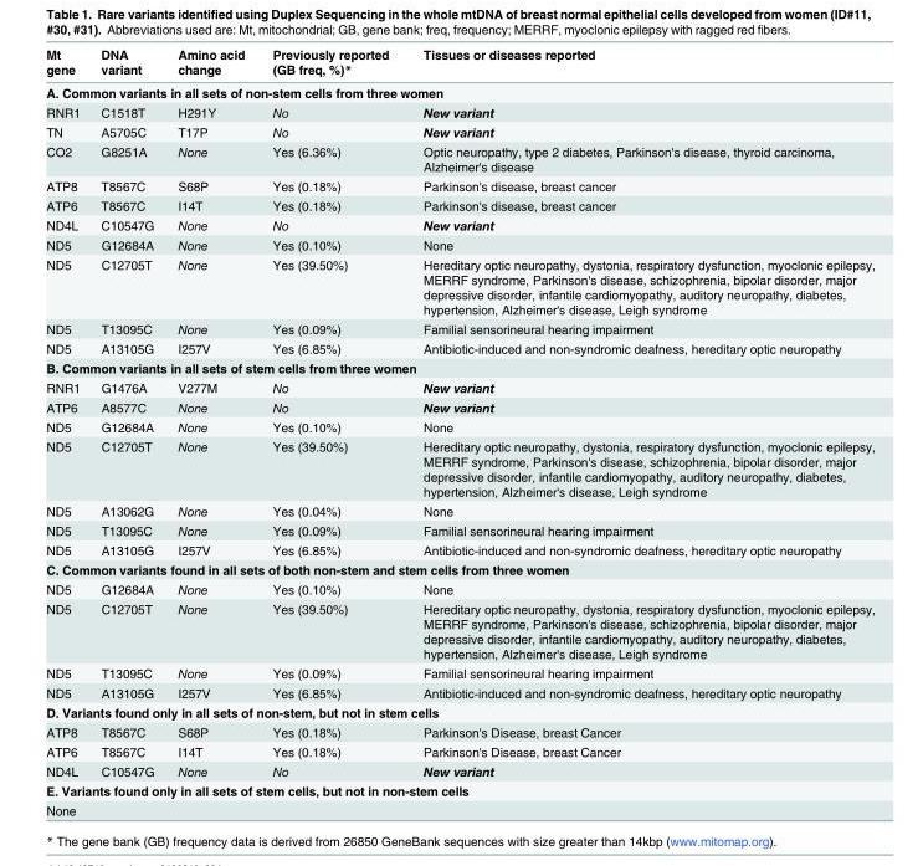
<table><thead><tr><td>Mt gene</td><td>DNA variant</td><td>Amino acid change</td><td>Previously reported (GB freq, %)*</td><td>Tissues or diseases reported</td></tr></thead><tbody><tr><td colspan="5">A. Common variants in all sets of non-stem cells from three women</td></tr><tr><td>RNR1</td><td>C1518T</td><td>H291Y</td><td>No</td><td>New variant</td></tr><tr><td>TN</td><td>A5705C</td><td>T17P</td><td>No</td><td>New variant</td></tr><tr><td>CO2</td><td>G8251A</td><td>None</td><td>Yes (6.36%)</td><td>Optic neuropathy, type 2 diabetes, Parkinson&#x27;s disease, thyroid carcinoma, Alzheimer&#x27;s disease</td></tr><tr><td>ATP8</td><td>T8567C</td><td>S68P</td><td>Yes (0.18%)</td><td>Parkinson&#x27;s disease, breast cancer</td></tr><tr><td>ATP6</td><td>T8567C</td><td>I14T</td><td>Yes (0.18%)</td><td>Parkinson&#x27;s disease, breast cancer</td></tr><tr><td>ND4L</td><td>C10547G</td><td>None</td><td>No</td><td>New variant</td></tr><tr><td>ND5</td><td>G12684A</td><td>None</td><td>Yes (0.10%)</td><td>None</td></tr><tr><td>ND5</td><td>C12705T</td><td>None</td><td>Yes (39.50%)</td><td>Hereditary optic neuropathy, dystonia, respiratory dysfunction, myoclonic epilepsy, MERRF syndrome, Parkinson&#x27;s disease, schizophrenia, bipolar disorder, major depressive disorder, infantile cardiomyopathy, auditory neuropathy, diabetes, hypertension, Alzheimer&#x27;s disease, Leigh syndrome</td></tr><tr><td>ND5</td><td>T13095C</td><td>None</td><td>Yes (0.09%)</td><td>Familial sensorineural hearing impairment</td></tr><tr><td>ND5</td><td>A13105G</td><td>I257V</td><td>Yes (6.85%)</td><td>Antibiotic-induced and non-syndromic deafness, hereditary optic neuropathy</td></tr><tr><td colspan="5">B. Common variants in all sets of stem cells from three women</td></tr><tr><td>RNR1</td><td>G1476A</td><td>V277M</td><td>No</td><td>New variant</td></tr><tr><td>ATP6</td><td>A8577C</td><td>None</td><td>No</td><td>New variant</td></tr><tr><td>ND5</td><td>G12684A</td><td>None</td><td>Yes (0.10%)</td><td>None</td></tr><tr><td>ND5</td><td>C12705T</td><td>None</td><td>Yes (39.50%)</td><td>Hereditary optic neuropathy, dystonia, respiratory dysfunction, myoclonic epilepsy, MERRF syndrome, Parkinson&#x27;s disease, schizophrenia, bipolar disorder, major depressive disorder, infantile cardiomyopathy, auditory neuropathy, diabetes, hypertension, Alzheimer&#x27;s disease, Leigh syndrome</td></tr><tr><td>ND5</td><td>A13062G</td><td>None</td><td>Yes (0.04%)</td><td>None</td></tr><tr><td>ND5</td><td>T13095C</td><td>None</td><td>Yes (0.09%)</td><td>Familial sensorineural hearing impairment</td></tr><tr><td>ND5</td><td>A13105G</td><td>I257V</td><td>Yes (6.85%)</td><td>Antibiotic-induced and non-syndromic deafness, hereditary optic neuropathy</td></tr><tr><td colspan="5">C. Common variants found in all sets of both non-stem and stem cells from three women</td></tr><tr><td>ND5</td><td>G12684A</td><td>None</td><td>Yes (0.10%)</td><td>None</td></tr><tr><td>ND5</td><td>C12705T</td><td>None</td><td>Yes (39.50%)</td><td>Hereditary optic neuropathy, dystonia, respiratory dysfunction, myoclonic epilepsy, MERRF syndrome, Parkinson&#x27;s disease, schizophrenia, bipolar disorder, major depressive disorder, infantile cardiomyopathy, auditory neuropathy, diabetes, hypertension, Alzheimer&#x27;s disease, Leigh syndrome</td></tr><tr><td>ND5</td><td>T13095C</td><td>None</td><td>Yes (0.09%)</td><td>Familial sensorineural hearing impairment</td></tr><tr><td>ND5</td><td>A13105G</td><td>I257V</td><td>Yes (6.85%)</td><td>Antibiotic-induced and non-syndromic deafness, hereditary optic neuropathy</td></tr><tr><td colspan="5">D. Variants found only in all sets of non-stem, but not in stem cells</td></tr><tr><td>ATP8</td><td>T8567C</td><td>S68P</td><td>Yes (0.18%)</td><td>Parkinson&#x27;s Disease, breast Cancer</td></tr><tr><td>ATP6</td><td>T8567C</td><td>I14T</td><td>Yes (0.18%)</td><td>Parkinson&#x27;s Disease, breast Cancer</td></tr><tr><td>ND4L</td><td>C10547G</td><td>None</td><td>No</td><td>New variant</td></tr><tr><td colspan="5">E. Variants found only in all sets of stem cells, but not in non-stem cells</td></tr><tr><td>None</td><td></td><td></td><td></td><td></td></tr></tbody></table>